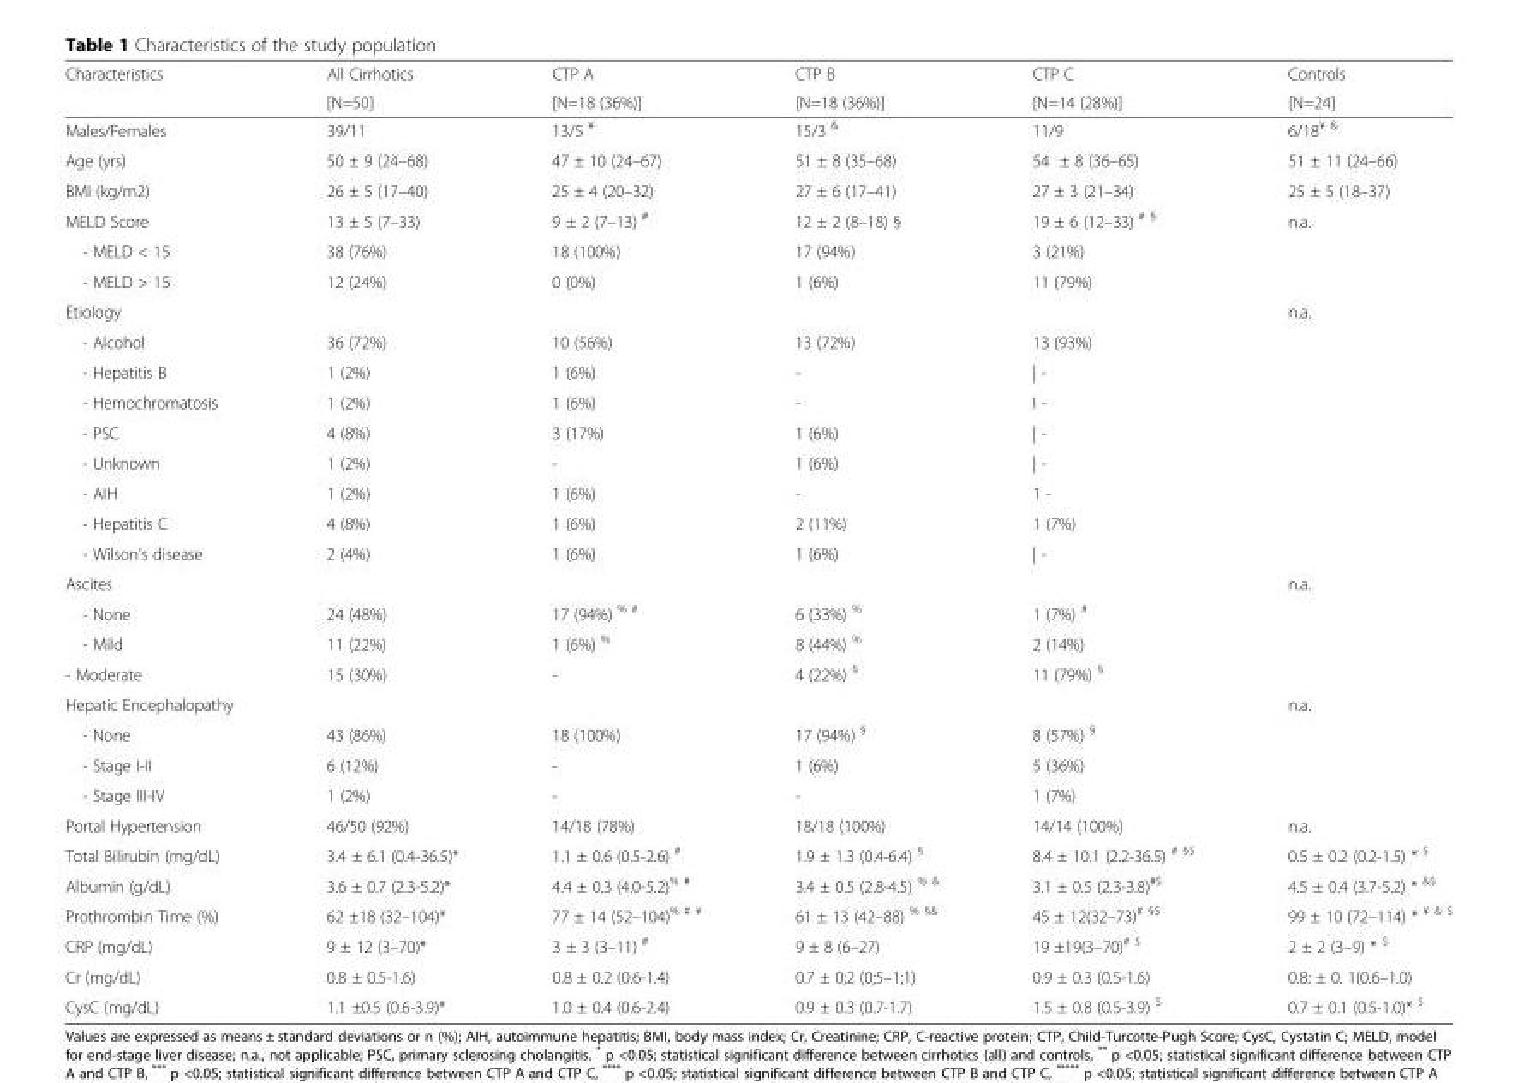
<table><thead><tr><td rowspan="2">Characteristics</td><td rowspan="2">All Cirrhotics [N=50]</td><td rowspan="2">CTP A [N=18 (36%)]</td><td rowspan="2">CTP B [N=18 (36%)]</td><td rowspan="2">CTP C [N=14 (28%)]</td><td rowspan="2">Controls [N=24]</td></tr><tr></tr></thead><tbody><tr><td>Males/Females</td><td>39/11</td><td>13/5 <sup>¥</sup></td><td>15/3 <sup>&amp;</sup></td><td>11/9</td><td>6/18<sup>¥ &amp;</sup></td></tr><tr><td>Age (yrs)</td><td>50 ± 9 (24–68)</td><td>47 ± 10 (24–67)</td><td>51 ± 8 (35–68)</td><td>54 ± 8 (36–65)</td><td>51 ± 11 (24–66)</td></tr><tr><td>BMI (kg/m2)</td><td>26 ± 5 (17–40)</td><td>25 ± 4 (20–32)</td><td>27 ± 6 (17–41)</td><td>27 ± 3 (21–34)</td><td>25 ± 5 (18–37)</td></tr><tr><td>MELD Score</td><td>13 ± 5 (7–33)</td><td>9 ± 2 (7–13) <sup>#</sup></td><td>12 ± 2 (8–18) §</td><td>19 ± 6 (12–33) <sup># §</sup></td><td>n.a.</td></tr><tr><td>- MELD &lt; 15</td><td>38 (76%)</td><td>18 (100%)</td><td>17 (94%)</td><td>3 (21%)</td><td></td></tr><tr><td>- MELD &gt; 15</td><td>12 (24%)</td><td>0 (0%)</td><td>1 (6%)</td><td>11 (79%)</td><td></td></tr><tr><td>Etiology</td><td></td><td></td><td></td><td></td><td>n.a.</td></tr><tr><td>- Alcohol</td><td>36 (72%)</td><td>10 (56%)</td><td>13 (72%)</td><td>13 (93%)</td><td></td></tr><tr><td>- Hepatitis B</td><td>1 (2%)</td><td>1 (6%)</td><td>-</td><td>| -</td><td></td></tr><tr><td>- Hemochromatosis</td><td>1 (2%)</td><td>1 (6%)</td><td>-</td><td>I -</td><td></td></tr><tr><td>- PSC</td><td>4 (8%)</td><td>3 (17%)</td><td>1 (6%)</td><td>| -</td><td></td></tr><tr><td>- Unknown</td><td>1 (2%)</td><td>-</td><td>1 (6%)</td><td>| -</td><td></td></tr><tr><td>- AIH</td><td>1 (2%)</td><td>1 (6%)</td><td>-</td><td>1 -</td><td></td></tr><tr><td>- Hepatitis C</td><td>4 (8%)</td><td>1 (6%)</td><td>2 (11%)</td><td>1 (7%)</td><td></td></tr><tr><td>- Wilson&#x27;s disease</td><td>2 (4%)</td><td>1 (6%)</td><td>1 (6%)</td><td>| -</td><td></td></tr><tr><td>Ascites</td><td></td><td></td><td></td><td></td><td>n.a.</td></tr><tr><td>- None</td><td>24 (48%)</td><td>17 (94%) <sup>% #</sup></td><td>6 (33%) <sup>%</sup></td><td>1 (7%) <sup>#</sup></td><td></td></tr><tr><td>- Mild</td><td>11 (22%)</td><td>1 (6%) <sup>%</sup></td><td>8 (44%) <sup>%</sup></td><td>2 (14%)</td><td></td></tr><tr><td>- Moderate</td><td>15 (30%)</td><td>-</td><td>4 (22%) <sup>§</sup></td><td>11 (79%) <sup>§</sup></td><td></td></tr><tr><td>Hepatic Encephalopathy</td><td></td><td></td><td></td><td></td><td>n.a.</td></tr><tr><td>- None</td><td>43 (86%)</td><td>18 (100%)</td><td>17 (94%) <sup>§</sup></td><td>8 (57%) <sup>§</sup></td><td></td></tr><tr><td>- Stage I-II</td><td>6 (12%)</td><td>-</td><td>1 (6%)</td><td>5 (36%)</td><td></td></tr><tr><td>- Stage III-IV</td><td>1 (2%)</td><td>-</td><td>-</td><td>1 (7%)</td><td></td></tr><tr><td>Portal Hypertension</td><td>46/50 (92%)</td><td>14/18 (78%)</td><td>18/18 (100%)</td><td>14/14 (100%)</td><td>n.a.</td></tr><tr><td>Total Bilirubin (mg/dL)</td><td>3.4 ± 6.1 (0.4-36.5)*</td><td>1.1 ± 0.6 (0.5-2.6) <sup>#</sup></td><td>1.9 ± 1.3 (0.4-6.4) <sup>§</sup></td><td>8.4 ± 10.1 (2.2-36.5) <sup># §$</sup></td><td>0.5 ± 0.2 (0.2-1.5) * <sup>$</sup></td></tr><tr><td>Albumin (g/dL)</td><td>3.6 ± 0.7 (2.3-5.2)*</td><td>4.4 ± 0.3 (4.0-5.2)<sup>% #</sup></td><td>3.4 ± 0.5 (2.8-4.5) <sup>% &amp;</sup></td><td>3.1 ± 0.5 (2.3-3.8)<sup>#$</sup></td><td>4.5 ± 0.4 (3.7-5.2) * <sup>&amp;$</sup></td></tr><tr><td>Prothrombin Time (%)</td><td>62 ±18 (32–104)*</td><td>77 ± 14 (52–104)<sup>% # ¥</sup></td><td>61 ± 13 (42–88) <sup>% §&amp;</sup></td><td>45 ± 12(32–73)<sup># §$</sup></td><td>99 ± 10 (72–114) * <sup>¥ &amp; $</sup></td></tr><tr><td>CRP (mg/dL)</td><td>9 ± 12 (3–70)*</td><td>3 ± 3 (3–11) <sup>#</sup></td><td>9 ± 8 (6–27)</td><td>19 ±19(3–70)<sup># $</sup></td><td>2 ± 2 (3–9) * <sup>$</sup></td></tr><tr><td>Cr (mg/dL)</td><td>0.8 ± 0.5-1.6)</td><td>0.8 ± 0.2 (0.6-1.4)</td><td>0.7 ± 0;2 (0;5–1;1)</td><td>0.9 ± 0.3 (0.5-1.6)</td><td>0.8: ± 0. 1(0.6–1.0)</td></tr><tr><td>CysC (mg/dL)</td><td>1.1 ±0.5 (0.6-3.9)*</td><td>1.0 ± 0.4 (0.6-2.4)</td><td>0.9 ± 0.3 (0.7-1.7)</td><td>1.5 ± 0.8 (0.5-3.9) <sup>$</sup></td><td>0.7 ± 0.1 (0.5-1.0)* <sup>$</sup></td></tr></tbody></table>